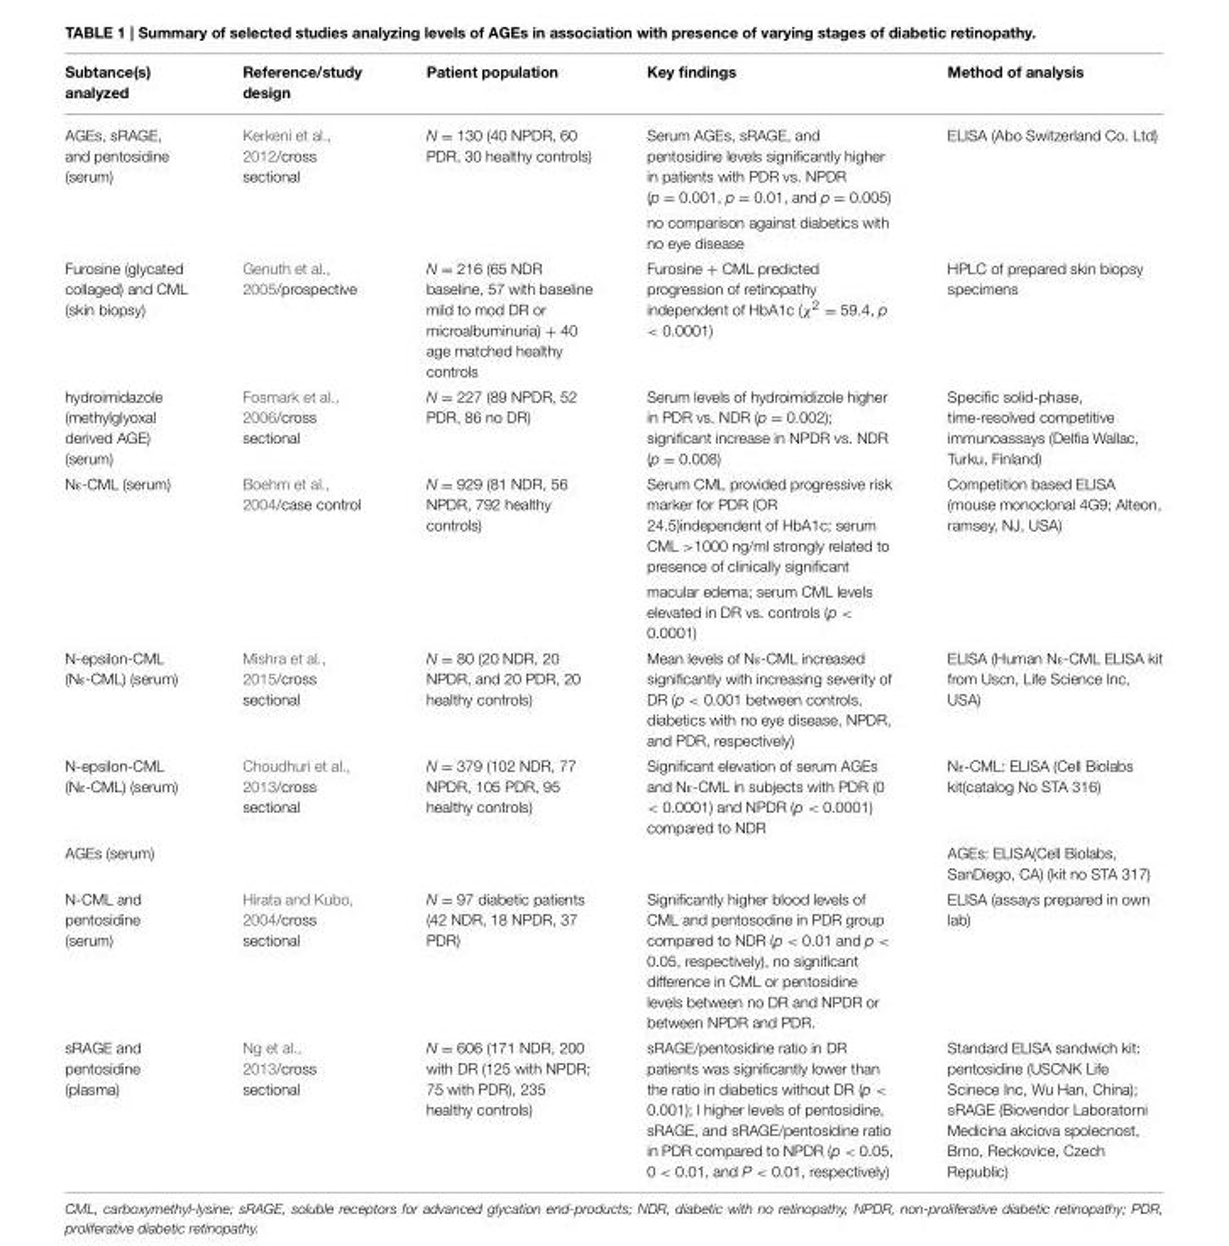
<table><thead><tr><td>Subtance(s) analyzed</td><td>Reference/study design</td><td>Patient population</td><td>Key findings</td><td>Method of analysis</td></tr></thead><tbody><tr><td rowspan="2">AGEs, sRAGE, and pentosidine (serum)</td><td>Kerkeni et al., 2012/cross sectional</td><td>N = 130 (40 NPDR, 60 PDR, 30 healthy controls)</td><td>Serum AGEs, sRAGE, and pentosidine levels significantly higher in patients with PDR vs. NPDR (p = 0.001, p = 0.01, and p = 0.005)</td><td>ELISA (Abo Switzerland Co. Ltd)</td></tr><tr><td></td><td></td><td>no comparison against diabetics with no eye disease</td><td></td></tr><tr><td>Furosine (glycated collaged) and CML (skin biopsy)</td><td>Genuth et al., 2005/prospective</td><td>N = 216 (65 NDR baseline, 57 with baseline mild to mod DR or microalbuminuria) + 40 age matched healthy controls</td><td>Furosine + CML predicted progression of retinopathy independent of HbA1c (χ<sup>2</sup> = 59.4, p &lt; 0.0001)</td><td>HPLC of prepared skin biopsy specimens</td></tr><tr><td>hydroimidazole (methylglyoxal derived AGE) (serum)</td><td>Fosmark et al., 2006/cross sectional</td><td>N = 227 (89 NPDR, 52 PDR, 86 no DR)</td><td>Serum levels of hydroimidizole higher in PDR vs. NDR (p = 0.002); significant increase in NPDR vs. NDR (p = 0.008)</td><td>Specific solid-phase, time-resolved competitive immunoassays (Delfia Wallac, Turku, Finland)</td></tr><tr><td rowspan="2">Nε-CML (serum)</td><td>Boehm et al., 2004/case control</td><td>N = 929 (81 NDR, 56 NPDR, 792 healthy controls)</td><td>Serum CML provided progressive risk marker for PDR (OR 24.5)independent of HbA1c; serum CML &gt;1000 ng/ml strongly related to presence of clinically significant</td><td>Competition based ELISA (mouse monoclonal 4G9; Alteon, ramsey, NJ, USA)</td></tr><tr><td></td><td></td><td>macular edema; serum CML levels elevated in DR vs. controls (p &lt; 0.0001)</td><td></td></tr><tr><td>N-epsilon-CML (Nε-CML) (serum)</td><td>Mishra et al., 2015/cross sectional</td><td>N = 80 (20 NDR, 20 NPDR, and 20 PDR, 20 healthy controls)</td><td>Mean levels of Nε-CML increased significantly with increasing severity of DR (p &lt; 0.001 between controls, diabetics with no eye disease, NPDR, and PDR, respectively)</td><td>ELISA (Human Nε-CML ELISA kit from Uscn, Life Science Inc, USA)</td></tr><tr><td>N-epsilon-CML (Nε-CML) (serum)</td><td>Choudhuri et al., 2013/cross sectional</td><td>N = 379 (102 NDR, 77 NPDR, 105 PDR, 95 healthy controls)</td><td>Significant elevation of serum AGEs and Nε-CML in subjects with PDR (0 &lt; 0.0001) and NPDR (p &lt; 0.0001) compared to NDR</td><td>Nε-CML: ELISA (Cell Biolabs kit(catalog No STA 316)</td></tr><tr><td>AGEs (serum)</td><td></td><td></td><td></td><td>AGEs: ELISA(Cell Biolabs, SanDiego, CA) (kit no STA 317)</td></tr><tr><td>N-CML and pentosidine (serum)</td><td>Hirata and Kubo, 2004/cross sectional</td><td>N = 97 diabetic patients (42 NDR, 18 NPDR, 37 PDR)</td><td>Significantly higher blood levels of CML and pentosodine in PDR group compared to NDR (p &lt; 0.01 and p &lt; 0.05, respectively), no significant difference in CML or pentosidine levels between no DR and NPDR or between NPDR and PDR.</td><td>ELISA (assays prepared in own lab)</td></tr><tr><td>sRAGE and pentosidine (plasma)</td><td>Ng et al., 2013/cross sectional</td><td>N = 606 (171 NDR, 200 with DR (125 with NPDR; 75 with PDR), 235 healthy controls)</td><td>sRAGE/pentosidine ratio in DR patients was significantly lower than the ratio in diabetics without DR (p &lt; 0.001); l higher levels of pentosidine, sRAGE, and sRAGE/pentosidine ratio in PDR compared to NPDR (p &lt; 0.05, 0 &lt; 0.01, and P &lt; 0.01, respectively)</td><td>Standard ELISA sandwich kit: pentosidine (USCNK Life Scinece Inc, Wu Han, China); sRAGE (Biovendor Laboratorni Medicina akciova spolecnost, Brno, Reckovice, Czech Republic)</td></tr></tbody></table>